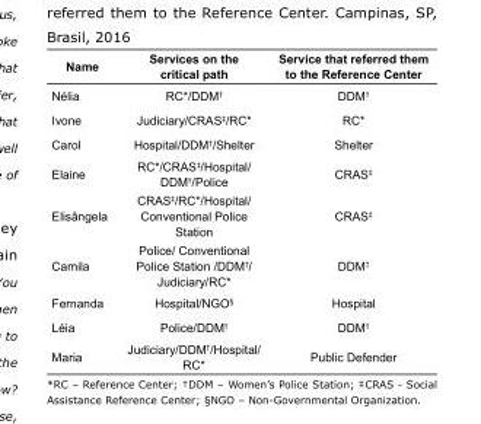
<table><tbody><tr><td>Name</td><td>Services on the critical path</td><td>Service that referred them to the Reference Center</td></tr><tr><td>Nélia</td><td>RC*/DDM<sup>†</sup></td><td>DDM<sup>†</sup></td></tr><tr><td>Ivone</td><td>Judiciary/CRAS<sup>‡</sup>/RC*</td><td>RC*</td></tr><tr><td>Carol</td><td>Hospital/DDM<sup>†</sup>/Shelter</td><td>Shelter</td></tr><tr><td>Elaine</td><td>RC*/CRAS<sup>‡</sup>/Hospital/ DDM<sup>†</sup>/Police</td><td>CRAS<sup>‡</sup></td></tr><tr><td>Elisângela</td><td>CRAS<sup>‡</sup>/RC*/Hospital/ Conventional Police Station</td><td>CRAS<sup>‡</sup></td></tr><tr><td>Camila</td><td>Police/ Conventional Police Station /DDM<sup>†</sup>/ Judiciary/RC*</td><td>DDM<sup>†</sup></td></tr><tr><td>Fernanda</td><td>Hospital/NGO<sup>§</sup></td><td>Hospital</td></tr><tr><td>Léia</td><td>Police/DDM<sup>†</sup></td><td>DDM<sup>†</sup></td></tr><tr><td>Maria</td><td>Judiciary/DDM<sup>†</sup>/Hospital/ RC*</td><td>Public Defender</td></tr></tbody></table>